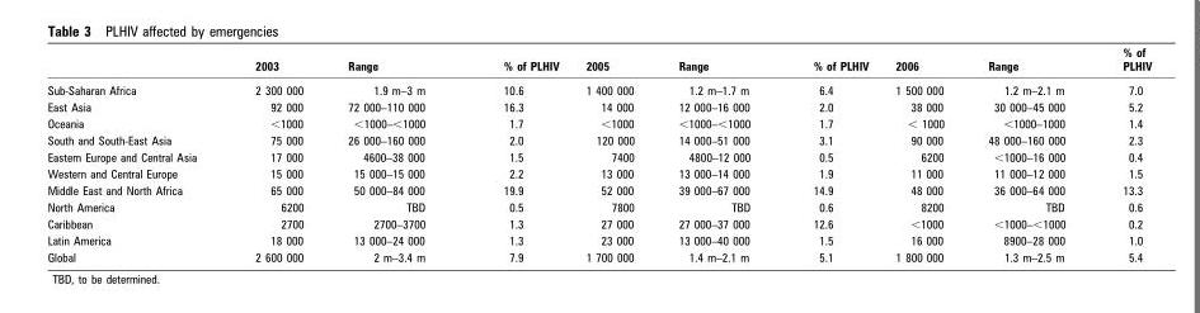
<table><thead><tr><td></td><td>2003</td><td>Range</td><td>% of PLHIV</td><td>2005</td><td>Range</td><td>% of PLHIV</td><td>2006</td><td>Range</td><td>% of PLHIV</td></tr></thead><tbody><tr><td>Sub-Saharan Africa</td><td>2 300 000</td><td>1.9 m–3 m</td><td>10.6</td><td>1 400 000</td><td>1.2 m–1.7 m</td><td>6.4</td><td>1 500 000</td><td>1.2 m–2.1 m</td><td>7.0</td></tr><tr><td>East Asia</td><td>92 000</td><td>72 000–110 000</td><td>16.3</td><td>14 000</td><td>12 000–16 000</td><td>2.0</td><td>38 000</td><td>30 000–45 000</td><td>5.2</td></tr><tr><td>Oceania</td><td>&lt;1000</td><td>&lt;1000–&lt;1000</td><td>1.7</td><td>&lt;1000</td><td>&lt;1000–&lt;1000</td><td>1.7</td><td>&lt; 1000</td><td>&lt;1000–1000</td><td>1.4</td></tr><tr><td>South and South-East Asia</td><td>75 000</td><td>26 000–160 000</td><td>2.0</td><td>120 000</td><td>14 000–51 000</td><td>3.1</td><td>90 000</td><td>48 000–160 000</td><td>2.3</td></tr><tr><td>Eastern Europe and Central Asia</td><td>17 000</td><td>4600–38 000</td><td>1.5</td><td>7400</td><td>4800–12 000</td><td>0.5</td><td>6200</td><td>&lt;1000–16 000</td><td>0.4</td></tr><tr><td>Western and Central Europe</td><td>15 000</td><td>15 000–15 000</td><td>2.2</td><td>13 000</td><td>13 000–14 000</td><td>1.9</td><td>11 000</td><td>11 000–12 000</td><td>1.5</td></tr><tr><td>Middle East and North Africa</td><td>65 000</td><td>50 000–84 000</td><td>19.9</td><td>52 000</td><td>39 000–67 000</td><td>14.9</td><td>48 000</td><td>36 000–64 000</td><td>13.3</td></tr><tr><td>North America</td><td>6200</td><td>TBD</td><td>0.5</td><td>7800</td><td>TBD</td><td>0.6</td><td>8200</td><td>TBD</td><td>0.6</td></tr><tr><td>Caribbean</td><td>2700</td><td>2700–3700</td><td>1.3</td><td>27 000</td><td>27 000–37 000</td><td>12.6</td><td>&lt;1000</td><td>&lt;1000–&lt;1000</td><td>0.2</td></tr><tr><td>Latin America</td><td>18 000</td><td>13 000–24 000</td><td>1.3</td><td>23 000</td><td>13 000–40 000</td><td>1.5</td><td>16 000</td><td>8900–28 000</td><td>1.0</td></tr><tr><td>Global</td><td>2 600 000</td><td>2 m–3.4 m</td><td>7.9</td><td>1 700 000</td><td>1.4 m–2.1 m</td><td>5.1</td><td>1 800 000</td><td>1.3 m–2.5 m</td><td>5.4</td></tr></tbody></table>